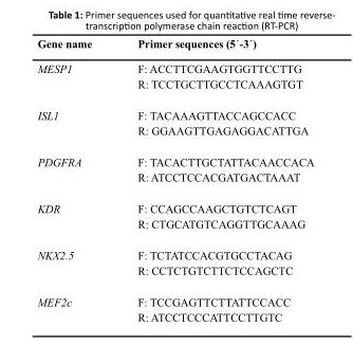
<table><thead><tr><td>Gene name</td><td>Primer sequences (5´-3´)</td></tr></thead><tbody><tr><td rowspan="2">MESP1</td><td>F: ACCTTCGAAGTGGTTCCTTG</td></tr><tr><td>R: TCCTGCTTGCCTCAAAGTGT</td></tr><tr><td rowspan="2">ISL1</td><td>F: TACAAAGTTACCAGCCACC</td></tr><tr><td>R: GGAAGTTGAGAGGACATTGA</td></tr><tr><td rowspan="2">PDGFRA</td><td>F: TACACTTGCTATTACAACCACA</td></tr><tr><td>R: ATCCTCCACGATGACTAAAT</td></tr><tr><td rowspan="2">KDR</td><td>F: CCAGCCAAGCTGTCTCAGT</td></tr><tr><td>R: CTGCATGTCAGGTTGCAAAG</td></tr><tr><td rowspan="2">NKX2.5</td><td>F: TCTATCCACGTGCCTACAG</td></tr><tr><td>R: CCTCTGTCTTCTCCAGCTC</td></tr><tr><td rowspan="2">MEF2c</td><td>F: TCCGAGTTCTTATTCCACC</td></tr><tr><td>R: ATCCTCCCATTCCTTGTC</td></tr></tbody></table>